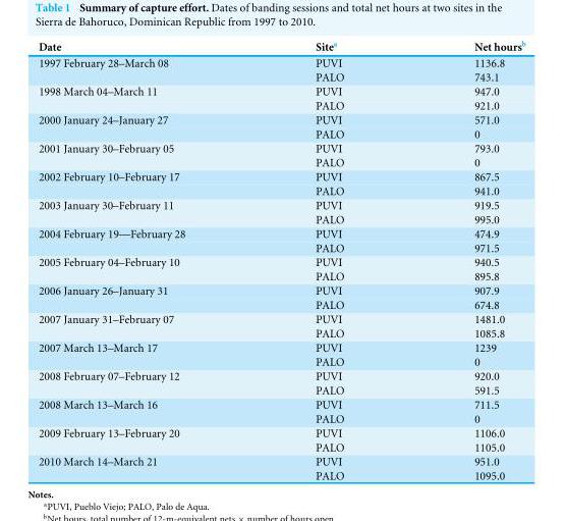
<table><thead><tr><td>Date</td><td>Site<sup>a</sup></td><td>Net hours<sup>b</sup></td></tr></thead><tbody><tr><td rowspan="2">1997 February 28–March 08</td><td>PUVI</td><td>1136.8</td></tr><tr><td>PALO</td><td>743.1</td></tr><tr><td rowspan="2">1998 March 04–March 11</td><td>PUVI</td><td>947.0</td></tr><tr><td>PALO</td><td>921.0</td></tr><tr><td rowspan="2">2000 January 24–January 27</td><td>PUVI</td><td>571.0</td></tr><tr><td>PALO</td><td>0</td></tr><tr><td rowspan="2">2001 January 30–February 05</td><td>PUVI</td><td>793.0</td></tr><tr><td>PALO</td><td>0</td></tr><tr><td rowspan="2">2002 February 10–February 17</td><td>PUVI</td><td>867.5</td></tr><tr><td>PALO</td><td>941.0</td></tr><tr><td rowspan="2">2003 January 30–February 11</td><td>PUVI</td><td>919.5</td></tr><tr><td>PALO</td><td>995.0</td></tr><tr><td rowspan="2">2004 February 19—February 28</td><td>PUVI</td><td>474.9</td></tr><tr><td>PALO</td><td>971.5</td></tr><tr><td rowspan="2">2005 February 04–February 10</td><td>PUVI</td><td>940.5</td></tr><tr><td>PALO</td><td>895.8</td></tr><tr><td rowspan="2">2006 January 26–January 31</td><td>PUVI</td><td>907.9</td></tr><tr><td>PALO</td><td>674.8</td></tr><tr><td rowspan="2">2007 January 31–February 07</td><td>PUVI</td><td>1481.0</td></tr><tr><td>PALO</td><td>1085.8</td></tr><tr><td rowspan="2">2007 March 13–March 17</td><td>PUVI</td><td>1239</td></tr><tr><td>PALO</td><td>0</td></tr><tr><td rowspan="2">2008 February 07–February 12</td><td>PUVI</td><td>920.0</td></tr><tr><td>PALO</td><td>591.5</td></tr><tr><td rowspan="2">2008 March 13–March 16</td><td>PUVI</td><td>711.5</td></tr><tr><td>PALO</td><td>0</td></tr><tr><td rowspan="2">2009 February 13–February 20</td><td>PUVI</td><td>1106.0</td></tr><tr><td>PALO</td><td>1105.0</td></tr><tr><td rowspan="2">2010 March 14–March 21</td><td>PUVI</td><td>951.0</td></tr><tr><td>PALO</td><td>1095.0</td></tr></tbody></table>